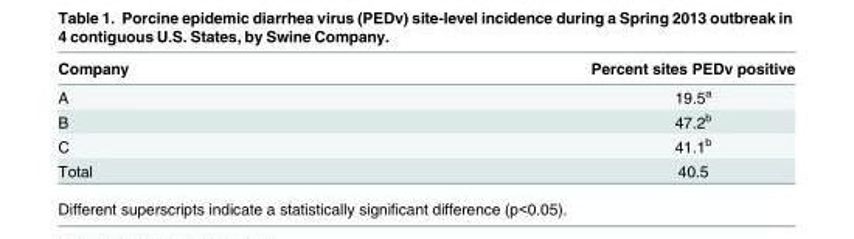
<table><thead><tr><td>Company</td><td>Percent sites PEDv positive</td></tr></thead><tbody><tr><td>A</td><td>19.5<sup>a</sup></td></tr><tr><td>B</td><td>47.2<sup>b</sup></td></tr><tr><td>C</td><td>41.1<sup>b</sup></td></tr><tr><td>Total</td><td>40.5</td></tr></tbody></table>